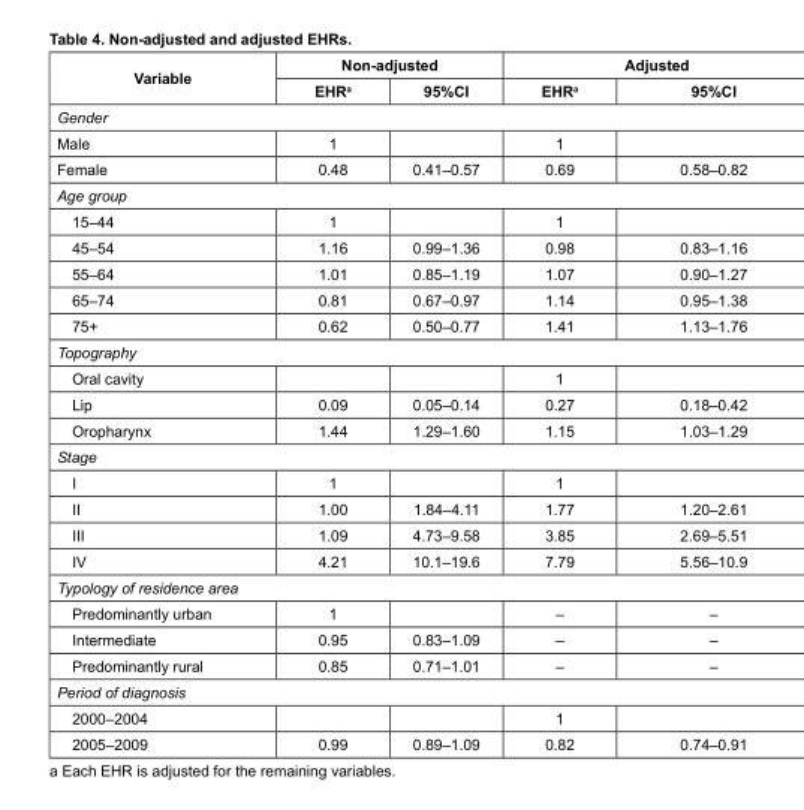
<table><thead><tr><td rowspan="2">Variable</td><td colspan="2">Non-adjusted</td><td colspan="2">Adjusted</td></tr><tr><td>EHR<sup>a</sup></td><td>95%CI</td><td>EHR<sup>a</sup></td><td>95%CI</td></tr></thead><tbody><tr><td colspan="5">Gender</td></tr><tr><td>Male</td><td>1</td><td></td><td>1</td><td></td></tr><tr><td>Female</td><td>0.48</td><td>0.41–0.57</td><td>0.69</td><td>0.58–0.82</td></tr><tr><td colspan="5">Age group</td></tr><tr><td>15–44</td><td>1</td><td></td><td>1</td><td></td></tr><tr><td>45–54</td><td>1.16</td><td>0.99–1.36</td><td>0.98</td><td>0.83–1.16</td></tr><tr><td>55–64</td><td>1.01</td><td>0.85–1.19</td><td>1.07</td><td>0.90–1.27</td></tr><tr><td>65–74</td><td>0.81</td><td>0.67–0.97</td><td>1.14</td><td>0.95–1.38</td></tr><tr><td>75+</td><td>0.62</td><td>0.50–0.77</td><td>1.41</td><td>1.13–1.76</td></tr><tr><td colspan="5">Topography</td></tr><tr><td>Oral cavity</td><td></td><td></td><td>1</td><td></td></tr><tr><td>Lip</td><td>0.09</td><td>0.05–0.14</td><td>0.27</td><td>0.18–0.42</td></tr><tr><td>Oropharynx</td><td>1.44</td><td>1.29–1.60</td><td>1.15</td><td>1.03–1.29</td></tr><tr><td colspan="5">Stage</td></tr><tr><td>I</td><td>1</td><td></td><td>1</td><td></td></tr><tr><td>II</td><td>1.00</td><td>1.84–4.11</td><td>1.77</td><td>1.20–2.61</td></tr><tr><td>III</td><td>1.09</td><td>4.73–9.58</td><td>3.85</td><td>2.69–5.51</td></tr><tr><td>IV</td><td>4.21</td><td>10.1–19.6</td><td>7.79</td><td>5.56–10.9</td></tr><tr><td colspan="5">Typology of residence area</td></tr><tr><td>Predominantly urban</td><td>1</td><td></td><td>–</td><td>–</td></tr><tr><td>Intermediate</td><td>0.95</td><td>0.83–1.09</td><td>–</td><td>–</td></tr><tr><td>Predominantly rural</td><td>0.85</td><td>0.71–1.01</td><td>–</td><td>–</td></tr><tr><td colspan="5">Period of diagnosis</td></tr><tr><td>2000–2004</td><td></td><td></td><td>1</td><td></td></tr><tr><td>2005–2009</td><td>0.99</td><td>0.89–1.09</td><td>0.82</td><td>0.74–0.91</td></tr></tbody></table>